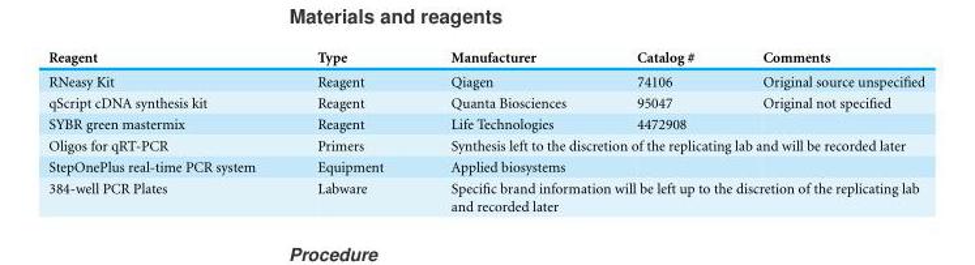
<table><thead><tr><td>Reagent</td><td>Type</td><td>Manufacturer</td><td>Catalog #</td><td>Comments</td></tr></thead><tbody><tr><td>RNeasy Kit</td><td>Reagent</td><td>Qiagen</td><td>74106</td><td>Original source unspecified</td></tr><tr><td>qScript cDNA synthesis kit</td><td>Reagent</td><td>Quanta Biosciences</td><td>95047</td><td>Original not specified</td></tr><tr><td>SYBR green mastermix</td><td>Reagent</td><td>Life Technologies</td><td>4472908</td><td></td></tr><tr><td>Oligos for qRT-PCR</td><td>Primers</td><td colspan="3">Synthesis left to the discretion of the replicating lab and will be recorded later</td></tr><tr><td>StepOnePlus real-time PCR system</td><td>Equipment</td><td>Applied biosystems</td><td></td><td></td></tr><tr><td>384-well PCR Plates</td><td>Labware</td><td colspan="3">Specific brand information will be left up to the discretion of the replicating lab and recorded later</td></tr></tbody></table>